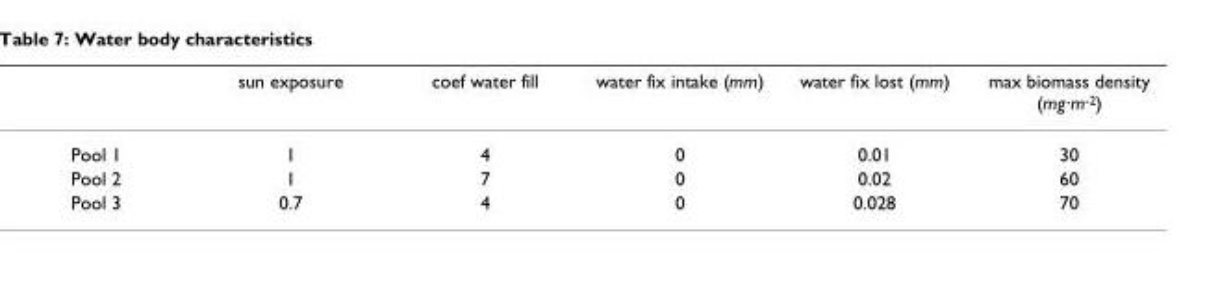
<table><thead><tr><td></td><td>sun exposure</td><td>coef water fill</td><td>water fix intake (mm)</td><td>water fix lost (mm)</td><td>max biomass density (mg·m-2)</td></tr></thead><tbody><tr><td>Pool 1</td><td>1</td><td>4</td><td>0</td><td>0.01</td><td>30</td></tr><tr><td>Pool 2</td><td>1</td><td>7</td><td>0</td><td>0.02</td><td>60</td></tr><tr><td>Pool 3</td><td>0.7</td><td>4</td><td>0</td><td>0.028</td><td>70</td></tr></tbody></table>